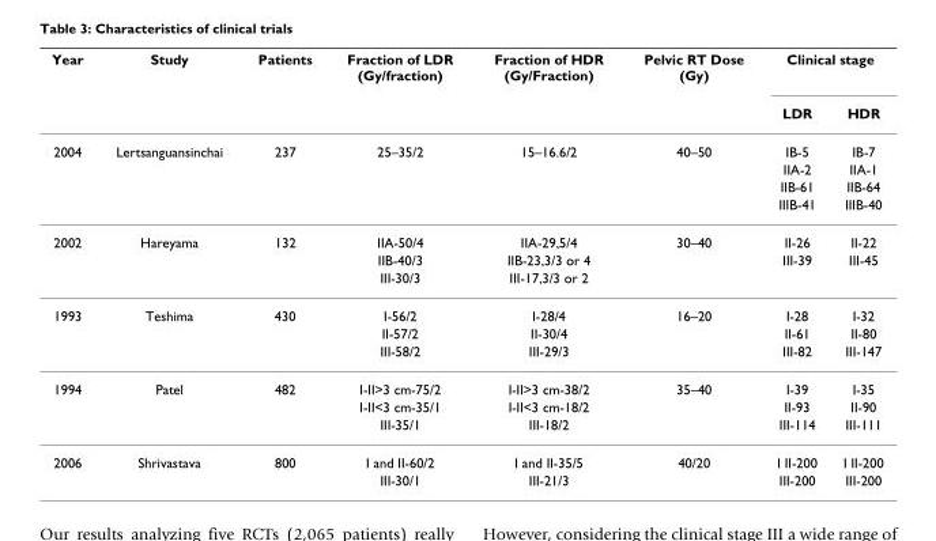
<table><thead><tr><td rowspan="2">Year</td><td rowspan="2">Study</td><td rowspan="2">Patients</td><td rowspan="2">Fraction of LDR (Gy/fraction)</td><td rowspan="2">Fraction of HDR (Gy/Fraction)</td><td rowspan="2">Pelvic RT Dose (Gy)</td><td colspan="2">Clinical stage</td></tr><tr><td>LDR</td><td>HDR</td></tr></thead><tbody><tr><td rowspan="4">2004</td><td>Lertsanguansinchai</td><td>237</td><td>25–35/2</td><td>15–16.6/2</td><td>40–50</td><td>IB-5</td><td>IB-7</td></tr><tr><td></td><td></td><td></td><td></td><td></td><td>IIA-2</td><td>IIA-1</td></tr><tr><td></td><td></td><td></td><td></td><td></td><td>IIB-61</td><td>IIB-64</td></tr><tr><td></td><td></td><td></td><td></td><td></td><td>IIIB-41</td><td>IIIB-40</td></tr><tr><td rowspan="3">2002</td><td>Hareyama</td><td>132</td><td>IIA-50/4</td><td>IIA-29,5/4</td><td>30–40</td><td>II-26</td><td>II-22</td></tr><tr><td></td><td></td><td>IIB-40/3</td><td>IIB-23,3/3 or 4</td><td></td><td>III-39</td><td>III-45</td></tr><tr><td></td><td></td><td>III-30/3</td><td>III-17,3/3 or 2</td><td></td><td></td><td></td></tr><tr><td rowspan="3">1993</td><td>Teshima</td><td>430</td><td>I-56/2</td><td>I-28/4</td><td>16–20</td><td>I-28</td><td>I-32</td></tr><tr><td></td><td></td><td>II-57/2</td><td>II-30/4</td><td></td><td>II-61</td><td>II-80</td></tr><tr><td></td><td></td><td>III-58/2</td><td>III-29/3</td><td></td><td>III-82</td><td>III-147</td></tr><tr><td rowspan="3">1994</td><td>Patel</td><td>482</td><td>I-II&gt;3 cm-75/2</td><td>I-II&gt;3 cm-38/2</td><td>35–40</td><td>I-39</td><td>I-35</td></tr><tr><td></td><td></td><td>I-II&lt;3 cm-35/1</td><td>I-II&lt;3 cm-18/2</td><td></td><td>II-93</td><td>II-90</td></tr><tr><td></td><td></td><td>III-35/1</td><td>III-18/2</td><td></td><td>III-114</td><td>III-111</td></tr><tr><td rowspan="2">2006</td><td>Shrivastava</td><td>800</td><td>I and II-60/2</td><td>I and II-35/5</td><td>40/20</td><td>I II-200</td><td>I II-200</td></tr><tr><td></td><td></td><td>III-30/1</td><td>III-21/3</td><td></td><td>III-200</td><td>III-200</td></tr></tbody></table>